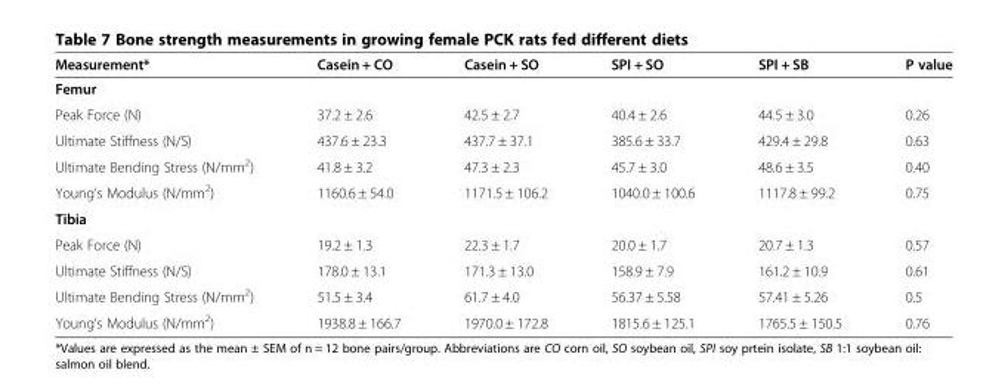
<table><thead><tr><td>Measurement*</td><td>Casein + CO</td><td>Casein + SO</td><td>SPI + SO</td><td>SPI + SB</td><td>P value</td></tr></thead><tbody><tr><td colspan="6">Femur</td></tr><tr><td>Peak Force (N)</td><td>37.2 ± 2.6</td><td>42.5 ± 2.7</td><td>40.4 ± 2.6</td><td>44.5 ± 3.0</td><td>0.26</td></tr><tr><td>Ultimate Stiffness (N/S)</td><td>437.6 ± 23.3</td><td>437.7 ± 37.1</td><td>385.6 ± 33.7</td><td>429.4 ± 29.8</td><td>0.63</td></tr><tr><td>Ultimate Bending Stress (N/mm<sup>2</sup>)</td><td>41.8 ± 3.2</td><td>47.3 ± 2.3</td><td>45.7 ± 3.0</td><td>48.6 ± 3.5</td><td>0.40</td></tr><tr><td>Young’s Modulus (N/mm<sup>2</sup>)</td><td>1160.6 ± 54.0</td><td>1171.5 ± 106.2</td><td>1040.0 ± 100.6</td><td>1117.8 ± 99.2</td><td>0.75</td></tr><tr><td colspan="6">Tibia</td></tr><tr><td>Peak Force (N)</td><td>19.2 ± 1.3</td><td>22.3 ± 1.7</td><td>20.0 ± 1.7</td><td>20.7 ± 1.3</td><td>0.57</td></tr><tr><td>Ultimate Stiffness (N/S)</td><td>178.0 ± 13.1</td><td>171.3 ± 13.0</td><td>158.9 ± 7.9</td><td>161.2 ± 10.9</td><td>0.61</td></tr><tr><td>Ultimate Bending Stress (N/mm<sup>2</sup>)</td><td>51.5 ± 3.4</td><td>61.7 ± 4.0</td><td>56.37 ± 5.58</td><td>57.41 ± 5.26</td><td>0.5</td></tr><tr><td>Young’s Modulus (N/mm<sup>2</sup>)</td><td>1938.8 ± 166.7</td><td>1970.0 ± 172.8</td><td>1815.6 ± 125.1</td><td>1765.5 ± 150.5</td><td>0.76</td></tr></tbody></table>